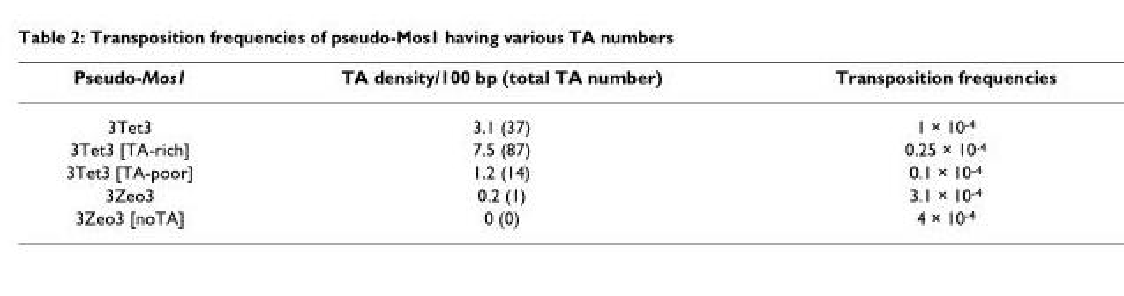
<table><thead><tr><td>Pseudo-Mos1</td><td>TA density/100 bp (total TA number)</td><td>Transposition frequencies</td></tr></thead><tbody><tr><td>3Tet3</td><td>3.1 (37)</td><td>1 × 10<sup>-4</sup></td></tr><tr><td>3Tet3 [TA-rich]</td><td>7.5 (87)</td><td>0.25 × 10<sup>-4</sup></td></tr><tr><td>3Tet3 [TA-poor]</td><td>1.2 (14)</td><td>0.1 × 10<sup>-4</sup></td></tr><tr><td>3Zeo3</td><td>0.2 (1)</td><td>3.1 × 10<sup>-4</sup></td></tr><tr><td>3Zeo3 [noTA]</td><td>0 (0)</td><td>4 × 10<sup>-4</sup></td></tr></tbody></table>